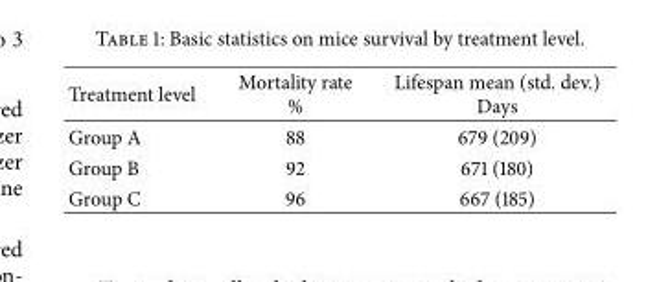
<table><thead><tr><td>Treatment level</td><td>Mortality rate %</td><td>Lifespan mean (std. dev.) Days</td></tr></thead><tbody><tr><td>Group A</td><td>88</td><td>679 (209)</td></tr><tr><td>Group B</td><td>92</td><td>671 (180)</td></tr><tr><td>Group C</td><td>96</td><td>667 (185)</td></tr></tbody></table>